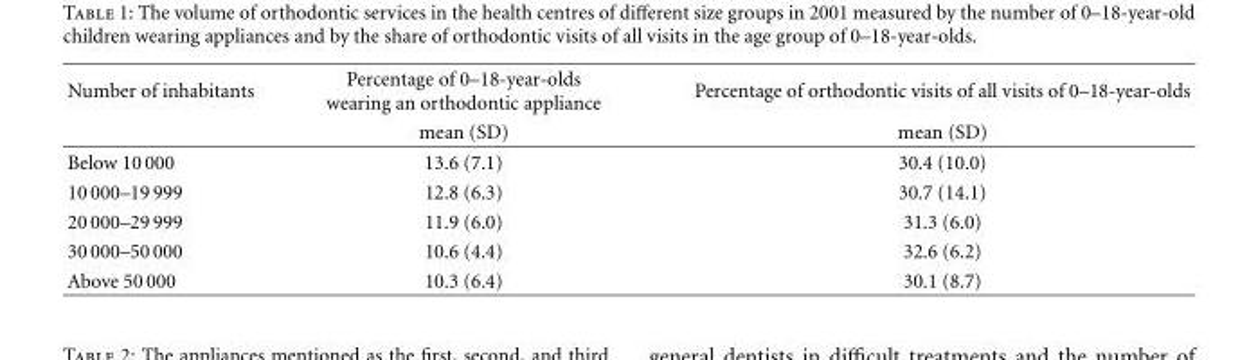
<table><thead><tr><td rowspan="2">Number of inhabitants</td><td rowspan="2">Percentage of 0–18-year-olds wearing an orthodontic appliance mean (SD)</td><td rowspan="2">Percentage of orthodontic visits of all visits of 0–18-year-olds mean (SD)</td></tr><tr></tr></thead><tbody><tr><td>Below 10 000</td><td>13.6 (7.1)</td><td>30.4 (10.0)</td></tr><tr><td>10 000–19 999</td><td>12.8 (6.3)</td><td>30.7 (14.1)</td></tr><tr><td>20 000–29 999</td><td>11.9 (6.0)</td><td>31.3 (6.0)</td></tr><tr><td>30 000–50 000</td><td>10.6 (4.4)</td><td>32.6 (6.2)</td></tr><tr><td>Above 50 000</td><td>10.3 (6.4)</td><td>30.1 (8.7)</td></tr></tbody></table>